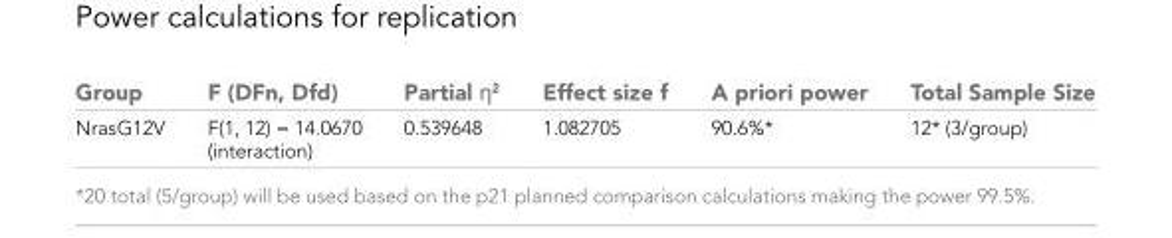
<table><thead><tr><td>Group</td><td>F (DFn, Dfd)</td><td>Partial η<sup>2</sup></td><td>Effect size f</td><td>A priori power</td><td>Total Sample Size</td></tr></thead><tbody><tr><td>NrasG12V</td><td>F(1, 12) = 14.0670 (interaction)</td><td>0.539648</td><td>1.082705</td><td>90.6%*</td><td>12* (3/group)</td></tr></tbody></table>